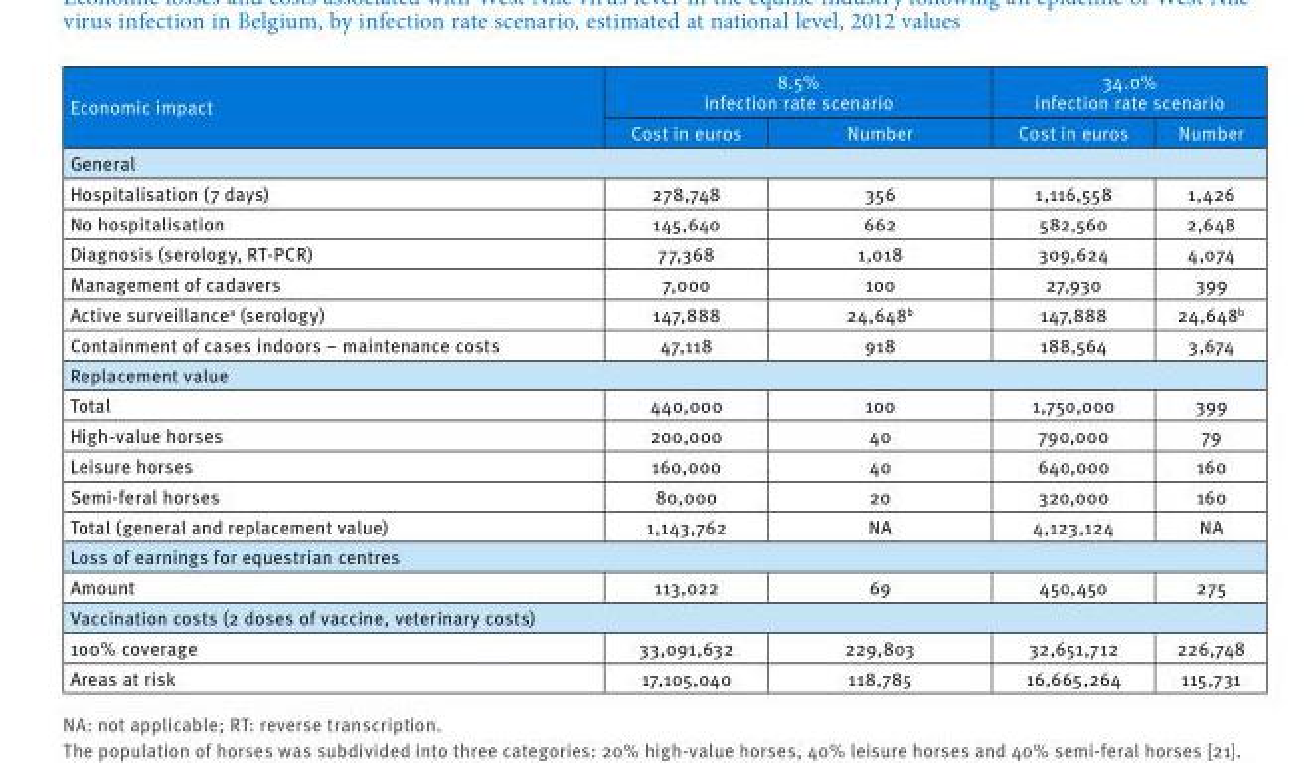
<table><thead><tr><td rowspan="2">Economic impact</td><td colspan="2">8.5% infection rate scenario</td><td colspan="2">34.0% infection rate scenario</td></tr><tr><td>Cost in euros</td><td>Number</td><td>Cost in euros</td><td>Number</td></tr></thead><tbody><tr><td colspan="5">General</td></tr><tr><td>Hospitalisation (7 days)</td><td>278,748</td><td>356</td><td>1,116,558</td><td>1,426</td></tr><tr><td>No hospitalisation</td><td>145,640</td><td>662</td><td>582,560</td><td>2,648</td></tr><tr><td>Diagnosis (serology, RT-PCR)</td><td>77,368</td><td>1,018</td><td>309,624</td><td>4,074</td></tr><tr><td>Management of cadavers</td><td>7,000</td><td>100</td><td>27,930</td><td>399</td></tr><tr><td>Active surveillance<sup>a</sup> (serology)</td><td>147,888</td><td>24,648<sup>b</sup></td><td>147,888</td><td>24,648<sup>b</sup></td></tr><tr><td>Containment of cases indoors – maintenance costs</td><td>47,118</td><td>918</td><td>188,564</td><td>3,674</td></tr><tr><td colspan="5">Replacement value</td></tr><tr><td>Total</td><td>440,000</td><td>100</td><td>1,750,000</td><td>399</td></tr><tr><td>High-value horses</td><td>200,000</td><td>40</td><td>790,000</td><td>79</td></tr><tr><td>Leisure horses</td><td>160,000</td><td>40</td><td>640,000</td><td>160</td></tr><tr><td>Semi-feral horses</td><td>80,000</td><td>20</td><td>320,000</td><td>160</td></tr><tr><td>Total (general and replacement value)</td><td>1,143,762</td><td>NA</td><td>4,123,124</td><td>NA</td></tr><tr><td colspan="5">Loss of earnings for equestrian centres</td></tr><tr><td>Amount</td><td>113,022</td><td>69</td><td>450,450</td><td>275</td></tr><tr><td colspan="5">Vaccination costs (2 doses of vaccine, veterinary costs)</td></tr><tr><td>100% coverage</td><td>33,091,632</td><td>229,803</td><td>32,651,712</td><td>226,748</td></tr><tr><td>Areas at risk</td><td>17,105,040</td><td>118,785</td><td>16,665,264</td><td>115,731</td></tr></tbody></table>